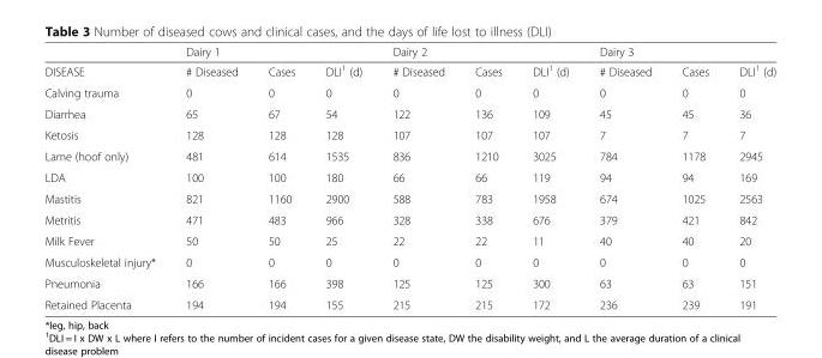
<table><thead><tr><td rowspan="2">DISEASE</td><td colspan="3">Dairy 1</td><td colspan="3">Dairy 2</td><td colspan="3">Dairy 3</td></tr><tr><td># Diseased</td><td>Cases</td><td>DLI<sup>1</sup> (d)</td><td># Diseased</td><td>Cases</td><td>DLI<sup>1</sup> (d)</td><td># Diseased</td><td>Cases</td><td>DLI<sup>1</sup> (d)</td></tr></thead><tbody><tr><td>Calving trauma</td><td>0</td><td>0</td><td>0</td><td>0</td><td>0</td><td>0</td><td>0</td><td>0</td><td>0</td></tr><tr><td>Diarrhea</td><td>65</td><td>67</td><td>54</td><td>122</td><td>136</td><td>109</td><td>45</td><td>45</td><td>36</td></tr><tr><td>Ketosis</td><td>128</td><td>128</td><td>128</td><td>107</td><td>107</td><td>107</td><td>7</td><td>7</td><td>7</td></tr><tr><td>Lame (hoof only)</td><td>481</td><td>614</td><td>1535</td><td>836</td><td>1210</td><td>3025</td><td>784</td><td>1178</td><td>2945</td></tr><tr><td>LDA</td><td>100</td><td>100</td><td>180</td><td>66</td><td>66</td><td>119</td><td>94</td><td>94</td><td>169</td></tr><tr><td>Mastitis</td><td>821</td><td>1160</td><td>2900</td><td>588</td><td>783</td><td>1958</td><td>674</td><td>1025</td><td>2563</td></tr><tr><td>Metritis</td><td>471</td><td>483</td><td>966</td><td>328</td><td>338</td><td>676</td><td>379</td><td>421</td><td>842</td></tr><tr><td>Milk Fever</td><td>50</td><td>50</td><td>25</td><td>22</td><td>22</td><td>11</td><td>40</td><td>40</td><td>20</td></tr><tr><td>Musculoskeletal injury*</td><td>0</td><td>0</td><td>0</td><td>0</td><td>0</td><td>0</td><td>0</td><td>0</td><td>0</td></tr><tr><td>Pneumonia</td><td>166</td><td>166</td><td>398</td><td>125</td><td>125</td><td>300</td><td>63</td><td>63</td><td>151</td></tr><tr><td>Retained Placenta</td><td>194</td><td>194</td><td>155</td><td>215</td><td>215</td><td>172</td><td>236</td><td>239</td><td>191</td></tr></tbody></table>